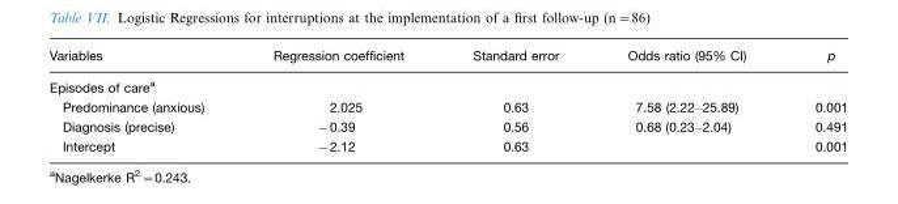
<table><thead><tr><td>Variables</td><td>Regression coefficient</td><td>Standard error</td><td>Odds ratio (95% CI)</td><td>p</td></tr></thead><tbody><tr><td colspan="5">Episodes of care<sup>a</sup></td></tr><tr><td>Predominance (anxious)</td><td>2.025</td><td>0.63</td><td>7.58 (2.22–25.89)</td><td>0.001</td></tr><tr><td>Diagnosis (precise)</td><td>−0.39</td><td>0.56</td><td>0.68 (0.23–2.04)</td><td>0.491</td></tr><tr><td>Intercept</td><td>−2.12</td><td>0.63</td><td></td><td>0.001</td></tr></tbody></table>